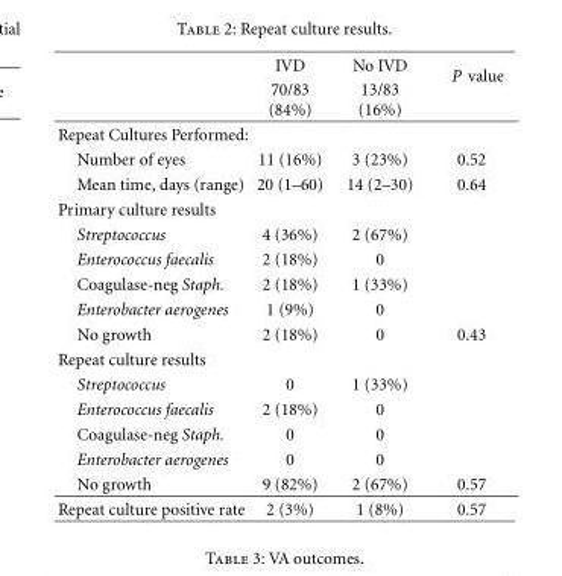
<table><thead><tr><td rowspan="2"></td><td rowspan="2">IVD 70/83 (84%)</td><td rowspan="2">No IVD 13/83 (16%)</td><td rowspan="2">P value</td></tr><tr></tr></thead><tbody><tr><td colspan="4">Repeat Cultures Performed:</td></tr><tr><td>Number of eyes</td><td>11 (16%)</td><td>3 (23%)</td><td>0.52</td></tr><tr><td>Mean time, days (range)</td><td>20 (1–60)</td><td>14 (2–30)</td><td>0.64</td></tr><tr><td colspan="4">Primary culture results</td></tr><tr><td>Streptococcus</td><td>4 (36%)</td><td>2 (67%)</td><td></td></tr><tr><td>Enterococcus faecalis</td><td>2 (18%)</td><td>0</td><td></td></tr><tr><td>Coagulase-neg Staph.</td><td>2 (18%)</td><td>1 (33%)</td><td></td></tr><tr><td>Enterobacter aerogenes</td><td>1 (9%)</td><td>0</td><td></td></tr><tr><td>No growth</td><td>2 (18%)</td><td>0</td><td>0.43</td></tr><tr><td colspan="4">Repeat culture results</td></tr><tr><td>Streptococcus</td><td>0</td><td>1 (33%)</td><td></td></tr><tr><td>Enterococcus faecalis</td><td>2 (18%)</td><td>0</td><td></td></tr><tr><td>Coagulase-neg Staph.</td><td>0</td><td>0</td><td></td></tr><tr><td>Enterobacter aerogenes</td><td>0</td><td>0</td><td></td></tr><tr><td>No growth</td><td>9 (82%)</td><td>2 (67%)</td><td>0.57</td></tr><tr><td>Repeat culture positive rate</td><td>2 (3%)</td><td>1 (8%)</td><td>0.57</td></tr></tbody></table>